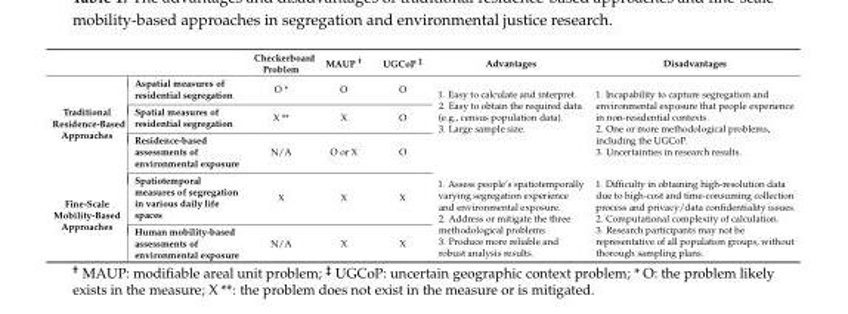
<table><thead><tr><td></td><td></td><td>Checkerboard Problem</td><td>MAUP <sup>†</sup></td><td>UGCoP <sup>‡</sup></td><td>Advantages</td><td>Disadvantages</td></tr></thead><tbody><tr><td rowspan="3">Traditional Residence-Based Approaches</td><td>Aspatial measures of residential segregation</td><td>O *</td><td>O</td><td>O</td><td rowspan="3">1. Easy to calculate and interpret. 2. Easy to obtain the required data (e.g., census population data). 3. Large sample size.</td><td rowspan="3">1. Incapability to capture segregation and environmental exposure that people experience in non-residential contexts. 2. One or more methodological problems, including the UGCoP. 3. Uncertainties in research results.</td></tr><tr><td>Spatial measures of residential segregation</td><td>X **</td><td>X</td><td>O</td></tr><tr><td>Residence-based assessments of environmental exposure</td><td>N/A</td><td>O or X</td><td>O</td></tr><tr><td rowspan="2">Fine-Scale Mobility-Based Approaches</td><td>Spatiotemporal measures of segregation in various daily life spaces</td><td>X</td><td>X</td><td>X</td><td rowspan="2">1. Assess people’s spatiotemporally varying segregation experience and environmental exposure. 2. Address or mitigate the three methodological problems. 3. Produce more reliable and robust analysis results.</td><td rowspan="2">1. Difficulty in obtaining high-resolution data due to high-cost and time-consuming collection process and privacy/data confidentiality issues. 2. Computational complexity of calculation. 3. Research participants may not be representative of all population groups, without thorough sampling plans.</td></tr><tr><td>Human mobility-based assessments of environmental exposure</td><td>N/A</td><td>X</td><td>X</td></tr></tbody></table>